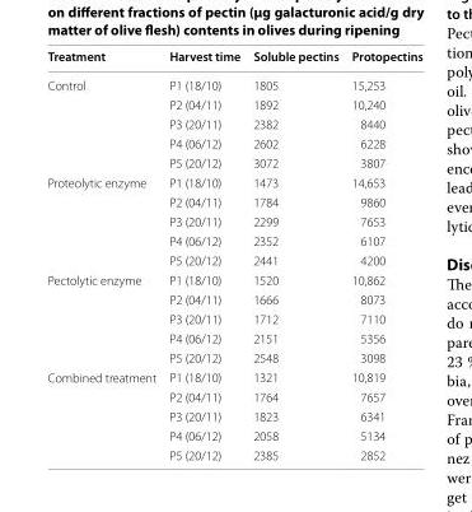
<table><thead><tr><td>Treatment</td><td>Harvest time</td><td>Soluble pectins</td><td>Protopectins</td></tr></thead><tbody><tr><td rowspan="5">Control</td><td>P1 (18/10)</td><td>1805</td><td>15,253</td></tr><tr><td>P2 (04/11)</td><td>1892</td><td>10,240</td></tr><tr><td>P3 (20/11)</td><td>2382</td><td>8440</td></tr><tr><td>P4 (06/12)</td><td>2602</td><td>6228</td></tr><tr><td>P5 (20/12)</td><td>3072</td><td>3807</td></tr><tr><td rowspan="5">Proteolytic enzyme</td><td>P1 (18/10)</td><td>1473</td><td>14,653</td></tr><tr><td>P2 (04/11)</td><td>1784</td><td>9860</td></tr><tr><td>P3 (20/11)</td><td>2299</td><td>7653</td></tr><tr><td>P4 (06/12)</td><td>2352</td><td>6107</td></tr><tr><td>P5 (20/12)</td><td>2441</td><td>4200</td></tr><tr><td rowspan="5">Pectolytic enzyme</td><td>P1 (18/10)</td><td>1520</td><td>10,862</td></tr><tr><td>P2 (04/11)</td><td>1666</td><td>8073</td></tr><tr><td>P3 (20/11)</td><td>1712</td><td>7110</td></tr><tr><td>P4 (06/12)</td><td>2151</td><td>5356</td></tr><tr><td>P5 (20/12)</td><td>2548</td><td>3098</td></tr><tr><td rowspan="5">Combined treatment</td><td>P1 (18/10)</td><td>1321</td><td>10,819</td></tr><tr><td>P2 (04/11)</td><td>1764</td><td>7657</td></tr><tr><td>P3 (20/11)</td><td>1823</td><td>6341</td></tr><tr><td>P4 (06/12)</td><td>2058</td><td>5134</td></tr><tr><td>P5 (20/12)</td><td>2385</td><td>2852</td></tr></tbody></table>